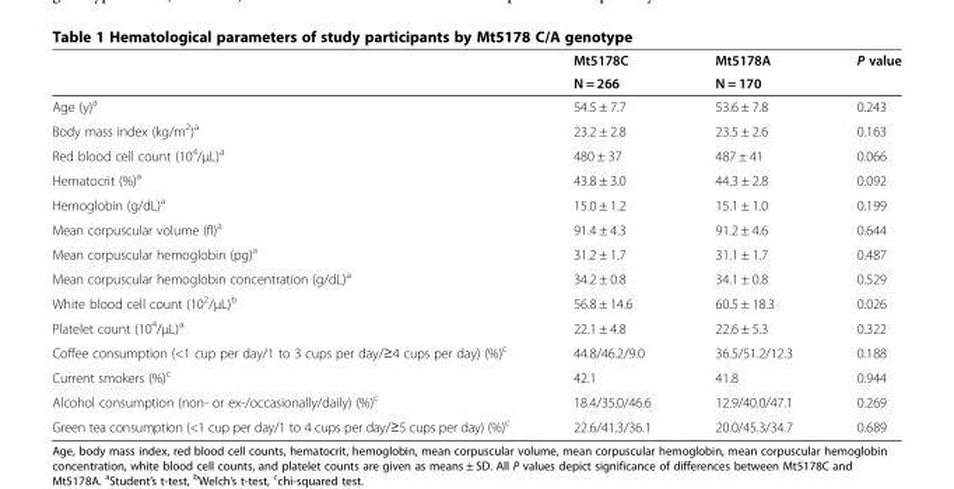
<table><thead><tr><td rowspan="2"></td><td rowspan="2">Mt5178C N = 266</td><td rowspan="2">Mt5178A N = 170</td><td rowspan="2">P value</td></tr><tr></tr></thead><tbody><tr><td>Age (y)<sup>a</sup></td><td>54.5 ± 7.7</td><td>53.6 ± 7.8</td><td>0.243</td></tr><tr><td>Body mass index (kg/m<sup>2</sup>)<sup>a</sup></td><td>23.2 ± 2.8</td><td>23.5 ± 2.6</td><td>0.163</td></tr><tr><td>Red blood cell count (10<sup>4</sup>/μL)<sup>a</sup></td><td>480 ± 37</td><td>487 ± 41</td><td>0.066</td></tr><tr><td>Hematocrit (%)<sup>a</sup></td><td>43.8 ± 3.0</td><td>44.3 ± 2.8</td><td>0.092</td></tr><tr><td>Hemoglobin (g/dL)<sup>a</sup></td><td>15.0 ± 1.2</td><td>15.1 ± 1.0</td><td>0.199</td></tr><tr><td>Mean corpuscular volume (fl)<sup>a</sup></td><td>91.4 ± 4.3</td><td>91.2 ± 4.6</td><td>0.644</td></tr><tr><td>Mean corpuscular hemoglobin (pg)<sup>a</sup></td><td>31.2 ± 1.7</td><td>31.1 ± 1.7</td><td>0.487</td></tr><tr><td>Mean corpuscular hemoglobin concentration (g/dL)<sup>a</sup></td><td>34.2 ± 0.8</td><td>34.1 ± 0.8</td><td>0.529</td></tr><tr><td>White blood cell count (10<sup>2</sup>/μL)<sup>b</sup></td><td>56.8 ± 14.6</td><td>60.5 ± 18.3</td><td>0.026</td></tr><tr><td>Platelet count (10<sup>4</sup>/μL)<sup>a</sup></td><td>22.1 ± 4.8</td><td>22.6 ± 5.3</td><td>0.322</td></tr><tr><td>Coffee consumption (&lt;1 cup per day/1 to 3 cups per day/≥4 cups per day) (%)<sup>c</sup></td><td>44.8/46.2/9.0</td><td>36.5/51.2/12.3</td><td>0.188</td></tr><tr><td>Current smokers (%)<sup>c</sup></td><td>42.1</td><td>41.8</td><td>0.944</td></tr><tr><td>Alcohol consumption (non- or ex-/occasionally/daily) (%)<sup>c</sup></td><td>18.4/35.0/46.6</td><td>12.9/40.0/47.1</td><td>0.269</td></tr><tr><td>Green tea consumption (&lt;1 cup per day/1 to 4 cups per day/≥5 cups per day) (%)<sup>c</sup></td><td>22.6/41.3/36.1</td><td>20.0/45.3/34.7</td><td>0.689</td></tr></tbody></table>